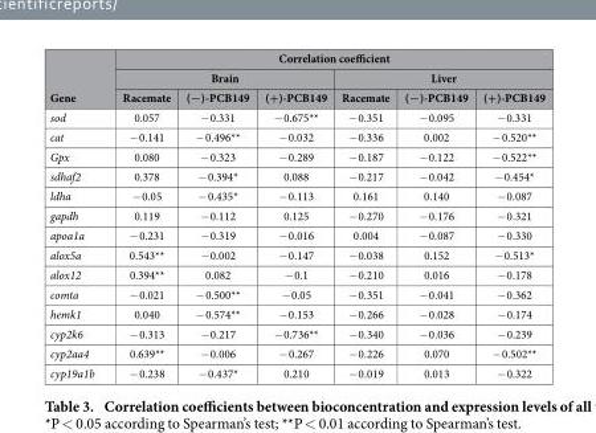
<table><thead><tr><td rowspan="3">Gene</td><td colspan="6">Correlation coefficient</td></tr><tr><td colspan="3">Brain</td><td colspan="3">Liver</td></tr><tr><td>Racemate</td><td>(−)-PCB149</td><td>(+)-PCB149</td><td>Racemate</td><td>(−)-PCB149</td><td>(+)-PCB149</td></tr></thead><tbody><tr><td>sod</td><td>0.057</td><td>− 0.331</td><td>− 0.675**</td><td>− 0.351</td><td>− 0.095</td><td>− 0.331</td></tr><tr><td>cat</td><td>− 0.141</td><td>− 0.496**</td><td>− 0.032</td><td>− 0.336</td><td>0.002</td><td>− 0.520**</td></tr><tr><td>Gpx</td><td>0.080</td><td>− 0.323</td><td>− 0.289</td><td>− 0.187</td><td>− 0.122</td><td>− 0.522**</td></tr><tr><td>sdhaf2</td><td>0.378</td><td>− 0.394*</td><td>0.088</td><td>− 0.217</td><td>− 0.042</td><td>− 0.454*</td></tr><tr><td>ldha</td><td>− 0.05</td><td>− 0.435*</td><td>− 0.113</td><td>0.161</td><td>0.140</td><td>− 0.087</td></tr><tr><td>gapdh</td><td>0.119</td><td>− 0.112</td><td>0.125</td><td>− 0.270</td><td>− 0.176</td><td>− 0.321</td></tr><tr><td>apoa1a</td><td>− 0.231</td><td>− 0.319</td><td>− 0.016</td><td>0.004</td><td>− 0.087</td><td>− 0.330</td></tr><tr><td>alox5a</td><td>0.543**</td><td>− 0.002</td><td>− 0.147</td><td>− 0.038</td><td>0.152</td><td>− 0.513*</td></tr><tr><td>alox12</td><td>0.394**</td><td>0.082</td><td>− 0.1</td><td>− 0.210</td><td>0.016</td><td>− 0.178</td></tr><tr><td>comta</td><td>− 0.021</td><td>− 0.500**</td><td>− 0.05</td><td>− 0.351</td><td>− 0.041</td><td>− 0.362</td></tr><tr><td>hemk1</td><td>0.040</td><td>− 0.574**</td><td>− 0.153</td><td>− 0.266</td><td>− 0.028</td><td>− 0.174</td></tr><tr><td>cyp2k6</td><td>− 0.313</td><td>− 0.217</td><td>− 0.736**</td><td>− 0.340</td><td>− 0.036</td><td>− 0.239</td></tr><tr><td>cyp2aa4</td><td>0.639**</td><td>− 0.006</td><td>− 0.267</td><td>− 0.226</td><td>0.070</td><td>− 0.502**</td></tr><tr><td>cyp19a1b</td><td>− 0.238</td><td>− 0.437*</td><td>0.210</td><td>− 0.019</td><td>0.013</td><td>− 0.322</td></tr></tbody></table>